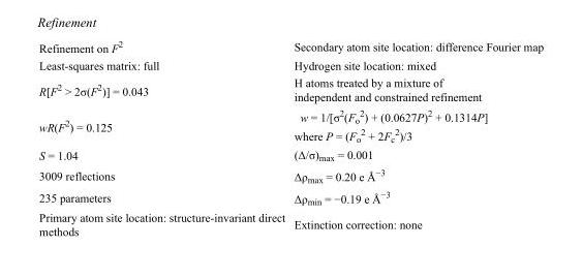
<table><tbody><tr><td>Refinement on F<sup>2</sup></td><td>Secondary atom site location: difference Fourier map</td></tr><tr><td>Least-squares matrix: full</td><td>Hydrogen site location: mixed</td></tr><tr><td>R[F<sup>2</sup> &gt; 2σ(F<sup>2</sup>)] = 0.043</td><td>H atoms treated by a mixture of independent and constrained refinement</td></tr><tr><td>wR(F<sup>2</sup>) = 0.125</td><td>w = 1/[σ<sup>2</sup>(F<sub>o</sub> <sup>2</sup>) + (0.0627P)<sup>2</sup> + 0.1314P] where P = (F<sub>o</sub> <sup>2</sup> + 2F<sub>c</sub> <sup>2</sup>)/3</td></tr><tr><td>S = 1.04</td><td>(Δ/σ)<sub>max</sub> = 0.001</td></tr><tr><td>3009 reflections</td><td>Δρ<sub>max</sub> = 0.20 e Å<sup>−3</sup></td></tr><tr><td>235 parameters</td><td>Δρ<sub>min</sub> = −0.19 e Å<sup>−3</sup></td></tr><tr><td>Primary atom site location: structure-invariant direct methods</td><td>Extinction correction: none</td></tr></tbody></table>